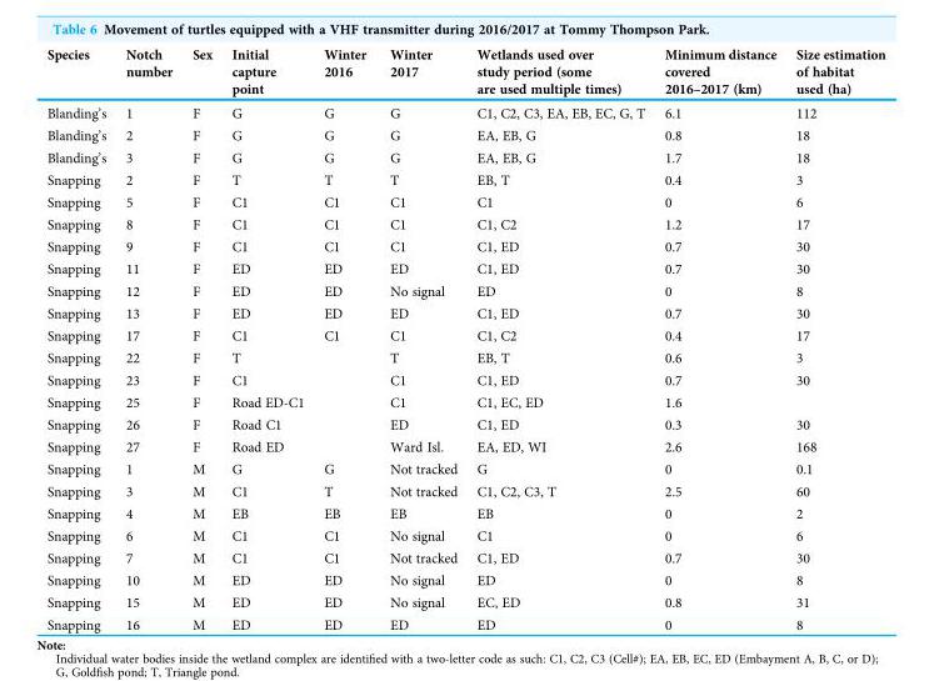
<table><thead><tr><td>Species</td><td>Notch number</td><td>Sex</td><td>Initial capture point</td><td>Winter 2016</td><td>Winter 2017</td><td>Wetlands used over study period (some are used multiple times)</td><td>Minimum distance covered 2016–2017 (km)</td><td>Size estimation of habitat used (ha)</td></tr></thead><tbody><tr><td>Blanding’s</td><td>1</td><td>F</td><td>G</td><td>G</td><td>G</td><td>C1, C2, C3, EA, EB, EC, G, T</td><td>6.1</td><td>112</td></tr><tr><td>Blanding’s</td><td>2</td><td>F</td><td>G</td><td>G</td><td>G</td><td>EA, EB, G</td><td>0.8</td><td>18</td></tr><tr><td>Blanding’s</td><td>3</td><td>F</td><td>G</td><td>G</td><td>G</td><td>EA, EB, G</td><td>1.7</td><td>18</td></tr><tr><td>Snapping</td><td>2</td><td>F</td><td>T</td><td>T</td><td>T</td><td>EB, T</td><td>0.4</td><td>3</td></tr><tr><td>Snapping</td><td>5</td><td>F</td><td>C1</td><td>C1</td><td>C1</td><td>C1</td><td>0</td><td>6</td></tr><tr><td>Snapping</td><td>8</td><td>F</td><td>C1</td><td>C1</td><td>C1</td><td>C1, C2</td><td>1.2</td><td>17</td></tr><tr><td>Snapping</td><td>9</td><td>F</td><td>C1</td><td>C1</td><td>C1</td><td>C1, ED</td><td>0.7</td><td>30</td></tr><tr><td>Snapping</td><td>11</td><td>F</td><td>ED</td><td>ED</td><td>ED</td><td>C1, ED</td><td>0.7</td><td>30</td></tr><tr><td>Snapping</td><td>12</td><td>F</td><td>ED</td><td>ED</td><td>No signal</td><td>ED</td><td>0</td><td>8</td></tr><tr><td>Snapping</td><td>13</td><td>F</td><td>ED</td><td>ED</td><td>ED</td><td>C1, ED</td><td>0.7</td><td>30</td></tr><tr><td>Snapping</td><td>17</td><td>F</td><td>C1</td><td>C1</td><td>C1</td><td>C1, C2</td><td>0.4</td><td>17</td></tr><tr><td>Snapping</td><td>22</td><td>F</td><td>T</td><td></td><td>T</td><td>EB, T</td><td>0.6</td><td>3</td></tr><tr><td>Snapping</td><td>23</td><td>F</td><td>C1</td><td></td><td>C1</td><td>C1, ED</td><td>0.7</td><td>30</td></tr><tr><td>Snapping</td><td>25</td><td>F</td><td>Road ED-C1</td><td></td><td>C1</td><td>C1, EC, ED</td><td>1.6</td><td></td></tr><tr><td>Snapping</td><td>26</td><td>F</td><td>Road C1</td><td></td><td>ED</td><td>C1, ED</td><td>0.3</td><td>30</td></tr><tr><td>Snapping</td><td>27</td><td>F</td><td>Road ED</td><td></td><td>Ward Isl.</td><td>EA, ED, WI</td><td>2.6</td><td>168</td></tr><tr><td>Snapping</td><td>1</td><td>M</td><td>G</td><td>G</td><td>Not tracked</td><td>G</td><td>0</td><td>0.1</td></tr><tr><td>Snapping</td><td>3</td><td>M</td><td>C1</td><td>T</td><td>Not tracked</td><td>C1, C2, C3, T</td><td>2.5</td><td>60</td></tr><tr><td>Snapping</td><td>4</td><td>M</td><td>EB</td><td>EB</td><td>EB</td><td>EB</td><td>0</td><td>2</td></tr><tr><td>Snapping</td><td>6</td><td>M</td><td>C1</td><td>C1</td><td>No signal</td><td>C1</td><td>0</td><td>6</td></tr><tr><td>Snapping</td><td>7</td><td>M</td><td>C1</td><td>C1</td><td>Not tracked</td><td>C1, ED</td><td>0.7</td><td>30</td></tr><tr><td>Snapping</td><td>10</td><td>M</td><td>ED</td><td>ED</td><td>No signal</td><td>ED</td><td>0</td><td>8</td></tr><tr><td>Snapping</td><td>15</td><td>M</td><td>ED</td><td>ED</td><td>No signal</td><td>EC, ED</td><td>0.8</td><td>31</td></tr><tr><td>Snapping</td><td>16</td><td>M</td><td>ED</td><td>ED</td><td>ED</td><td>ED</td><td>0</td><td>8</td></tr></tbody></table>